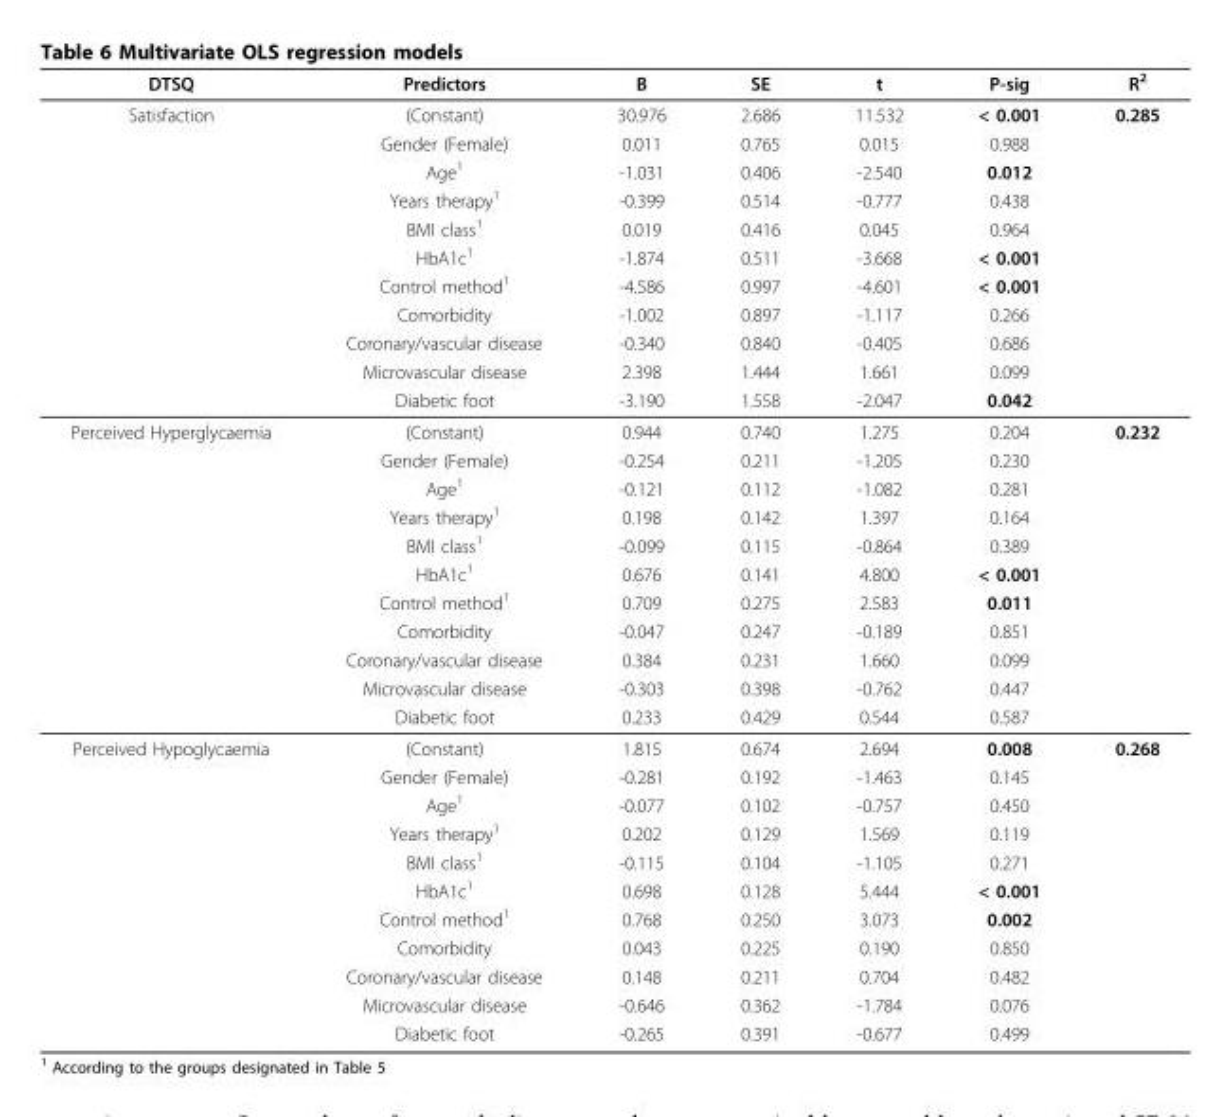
<table><thead><tr><td>DTSQ</td><td>Predictors</td><td>Β</td><td>SE</td><td>t</td><td>P-sig</td><td>R<sup>2</sup></td></tr></thead><tbody><tr><td rowspan="11">Satisfaction</td><td>(Constant)</td><td>30.976</td><td>2.686</td><td>11.532</td><td>&lt; 0.001</td><td>0.285</td></tr><tr><td>Gender (Female)</td><td>0.011</td><td>0.765</td><td>0.015</td><td>0.988</td><td></td></tr><tr><td>Age<sup>1</sup></td><td>-1.031</td><td>0.406</td><td>-2.540</td><td>0.012</td><td></td></tr><tr><td>Years therapy<sup>1</sup></td><td>-0.399</td><td>0.514</td><td>-0.777</td><td>0.438</td><td></td></tr><tr><td>BMI class<sup>1</sup></td><td>0.019</td><td>0.416</td><td>0.045</td><td>0.964</td><td></td></tr><tr><td>HbA1c<sup>1</sup></td><td>-1.874</td><td>0.511</td><td>-3.668</td><td>&lt; 0.001</td><td></td></tr><tr><td>Control method<sup>1</sup></td><td>-4.586</td><td>0.997</td><td>-4.601</td><td>&lt; 0.001</td><td></td></tr><tr><td>Comorbidity</td><td>-1.002</td><td>0.897</td><td>-1.117</td><td>0.266</td><td></td></tr><tr><td>Coronary/vascular disease</td><td>-0.340</td><td>0.840</td><td>-0.405</td><td>0.686</td><td></td></tr><tr><td>Microvascular disease</td><td>2.398</td><td>1.444</td><td>1.661</td><td>0.099</td><td></td></tr><tr><td>Diabetic foot</td><td>-3.190</td><td>1.558</td><td>-2.047</td><td>0.042</td><td></td></tr><tr><td rowspan="11">Perceived Hyperglycaemia</td><td>(Constant)</td><td>0.944</td><td>0.740</td><td>1.275</td><td>0.204</td><td>0.232</td></tr><tr><td>Gender (Female)</td><td>-0.254</td><td>0.211</td><td>-1.205</td><td>0.230</td><td></td></tr><tr><td>Age<sup>1</sup></td><td>-0.121</td><td>0.112</td><td>-1.082</td><td>0.281</td><td></td></tr><tr><td>Years therapy<sup>1</sup></td><td>0.198</td><td>0.142</td><td>1.397</td><td>0.164</td><td></td></tr><tr><td>BMI class<sup>1</sup></td><td>-0.099</td><td>0.115</td><td>-0.864</td><td>0.389</td><td></td></tr><tr><td>HbA1c<sup>1</sup></td><td>0.676</td><td>0.141</td><td>4.800</td><td>&lt; 0.001</td><td></td></tr><tr><td>Control method<sup>1</sup></td><td>0.709</td><td>0.275</td><td>2.583</td><td>0.011</td><td></td></tr><tr><td>Comorbidity</td><td>-0.047</td><td>0.247</td><td>-0.189</td><td>0.851</td><td></td></tr><tr><td>Coronary/vascular disease</td><td>0.384</td><td>0.231</td><td>1.660</td><td>0.099</td><td></td></tr><tr><td>Microvascular disease</td><td>-0.303</td><td>0.398</td><td>-0.762</td><td>0.447</td><td></td></tr><tr><td>Diabetic foot</td><td>0.233</td><td>0.429</td><td>0.544</td><td>0.587</td><td></td></tr><tr><td rowspan="11">Perceived Hypoglycaemia</td><td>(Constant)</td><td>1.815</td><td>0.674</td><td>2.694</td><td>0.008</td><td>0.268</td></tr><tr><td>Gender (Female)</td><td>-0.281</td><td>0.192</td><td>-1.463</td><td>0.145</td><td></td></tr><tr><td>Age<sup>1</sup></td><td>-0.077</td><td>0.102</td><td>-0.757</td><td>0.450</td><td></td></tr><tr><td>Years therapy<sup>1</sup></td><td>0.202</td><td>0.129</td><td>1.569</td><td>0.119</td><td></td></tr><tr><td>BMI class<sup>1</sup></td><td>-0.115</td><td>0.104</td><td>-1.105</td><td>0.271</td><td></td></tr><tr><td>HbA1c<sup>1</sup></td><td>0.698</td><td>0.128</td><td>5.444</td><td>&lt; 0.001</td><td></td></tr><tr><td>Control method<sup>1</sup></td><td>0.768</td><td>0.250</td><td>3.073</td><td>0.002</td><td></td></tr><tr><td>Comorbidity</td><td>0.043</td><td>0.225</td><td>0.190</td><td>0.850</td><td></td></tr><tr><td>Coronary/vascular disease</td><td>0.148</td><td>0.211</td><td>0.704</td><td>0.482</td><td></td></tr><tr><td>Microvascular disease</td><td>-0.646</td><td>0.362</td><td>-1.784</td><td>0.076</td><td></td></tr><tr><td>Diabetic foot</td><td>-0.265</td><td>0.391</td><td>-0.677</td><td>0.499</td><td></td></tr></tbody></table>